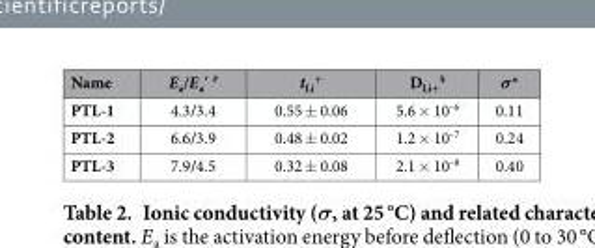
<table><thead><tr><td>Name</td><td>E<sub>a</sub>/E<sub>a</sub>′ <sup>#</sup></td><td>t<sub>Li</sub> <sup>+</sup></td><td>D<sub>Li+</sub> <sup>$</sup></td><td>σ*</td></tr></thead><tbody><tr><td>PTL-1</td><td>4.3/3.4</td><td>0.55 ± 0.06</td><td>5.6 × 10<sup>‒6</sup></td><td>0.11</td></tr><tr><td>PTL-2</td><td>6.6/3.9</td><td>0.48 ± 0.02</td><td>1.2 × 10<sup>‒7</sup></td><td>0.24</td></tr><tr><td>PTL-3</td><td>7.9/4.5</td><td>0.32 ± 0.08</td><td>2.1 × 10<sup>‒8</sup></td><td>0.40</td></tr></tbody></table>